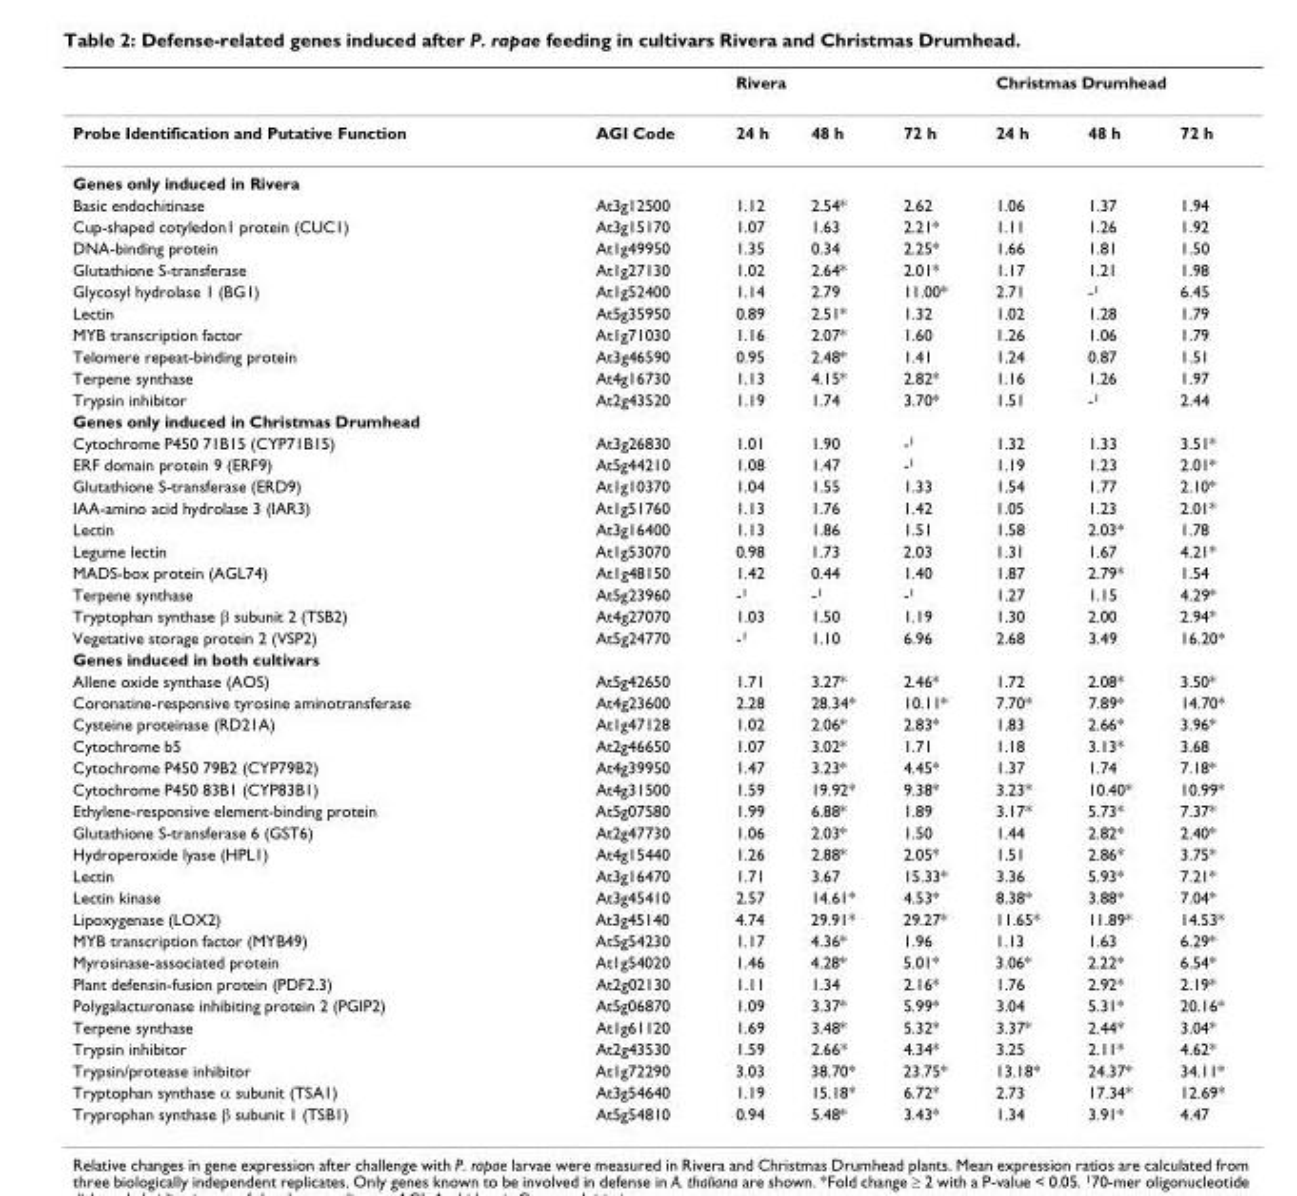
<table><thead><tr><td rowspan="2">Probe Identification and Putative Function</td><td rowspan="2">AGI Code</td><td colspan="3">Rivera</td><td colspan="3">Christmas Drumhead</td></tr><tr><td>24 h</td><td>48 h</td><td>72 h</td><td>24 h</td><td>48 h</td><td>72 h</td></tr></thead><tbody><tr><td colspan="8">Genes only induced in Rivera</td></tr><tr><td>Basic endochitinase</td><td>At3g12500</td><td>1.12</td><td>2.54*</td><td>2.62</td><td>1.06</td><td>1.37</td><td>1.94</td></tr><tr><td>Cup-shaped cotyledon1 protein (CUC1)</td><td>At3g15170</td><td>1.07</td><td>1.63</td><td>2.21*</td><td>1.11</td><td>1.26</td><td>1.92</td></tr><tr><td>DNA-binding protein</td><td>At1g49950</td><td>1.35</td><td>0.34</td><td>2.25*</td><td>1.66</td><td>1.81</td><td>1.50</td></tr><tr><td>Glutathione S-transferase</td><td>At1g27130</td><td>1.02</td><td>2.64*</td><td>2.01*</td><td>1.17</td><td>1.21</td><td>1.98</td></tr><tr><td>Glycosyl hydrolase 1 (BG1)</td><td>At1g52400</td><td>1.14</td><td>2.79</td><td>11.00*</td><td>2.71</td><td>-<sup>1</sup></td><td>6.45</td></tr><tr><td>Lectin</td><td>At5g35950</td><td>0.89</td><td>2.51*</td><td>1.32</td><td>1.02</td><td>1.28</td><td>1.79</td></tr><tr><td>MYB transcription factor</td><td>At1g71030</td><td>1.16</td><td>2.07*</td><td>1.60</td><td>1.26</td><td>1.06</td><td>1.79</td></tr><tr><td>Telomere repeat-binding protein</td><td>At3g46590</td><td>0.95</td><td>2.48*</td><td>1.41</td><td>1.24</td><td>0.87</td><td>1.51</td></tr><tr><td>Terpene synthase</td><td>At4g16730</td><td>1.13</td><td>4.15*</td><td>2.82*</td><td>1.16</td><td>1.26</td><td>1.97</td></tr><tr><td>Trypsin inhibitor</td><td>At2g43520</td><td>1.19</td><td>1.74</td><td>3.70*</td><td>1.51</td><td>-<sup>1</sup></td><td>2.44</td></tr><tr><td colspan="8">Genes only induced in Christmas Drumhead</td></tr><tr><td>Cytochrome P450 71B15 (CYP71B15)</td><td>At3g26830</td><td>1.01</td><td>1.90</td><td>-<sup>1</sup></td><td>1.32</td><td>1.33</td><td>3.51*</td></tr><tr><td>ERF domain protein 9 (ERF9)</td><td>At5g44210</td><td>1.08</td><td>1.47</td><td>-<sup>1</sup></td><td>1.19</td><td>1.23</td><td>2.01*</td></tr><tr><td>Glutathione S-transferase (ERD9)</td><td>At1g10370</td><td>1.04</td><td>1.55</td><td>1.33</td><td>1.54</td><td>1.77</td><td>2.10*</td></tr><tr><td>IAA-amino acid hydrolase 3 (IAR3)</td><td>At1g51760</td><td>1.13</td><td>1.76</td><td>1.42</td><td>1.05</td><td>1.23</td><td>2.01*</td></tr><tr><td>Lectin</td><td>At3g16400</td><td>1.13</td><td>1.86</td><td>1.51</td><td>1.58</td><td>2.03*</td><td>1.78</td></tr><tr><td>Legume lectin</td><td>At1g53070</td><td>0.98</td><td>1.73</td><td>2.03</td><td>1.31</td><td>1.67</td><td>4.21*</td></tr><tr><td>MADS-box protein (AGL74)</td><td>At1g48150</td><td>1.42</td><td>0.44</td><td>1.40</td><td>1.87</td><td>2.79*</td><td>1.54</td></tr><tr><td>Terpene synthase</td><td>At5g23960</td><td>-<sup>1</sup></td><td>-<sup>1</sup></td><td>-<sup>1</sup></td><td>1.27</td><td>1.15</td><td>4.29*</td></tr><tr><td>Tryptophan synthase β subunit 2 (TSB2)</td><td>At4g27070</td><td>1.03</td><td>1.50</td><td>1.19</td><td>1.30</td><td>2.00</td><td>2.94*</td></tr><tr><td>Vegetative storage protein 2 (VSP2)</td><td>At5g24770</td><td>-<sup>1</sup></td><td>1.10</td><td>6.96</td><td>2.68</td><td>3.49</td><td>16.20*</td></tr><tr><td colspan="8">Genes induced in both cultivars</td></tr><tr><td>Allene oxide synthase (AOS)</td><td>At5g42650</td><td>1.71</td><td>3.27*</td><td>2.46*</td><td>1.72</td><td>2.08*</td><td>3.50*</td></tr><tr><td>Coronatine-responsive tyrosine aminotransferase</td><td>At4g23600</td><td>2.28</td><td>28.34*</td><td>10.11*</td><td>7.70*</td><td>7.89*</td><td>14.70*</td></tr><tr><td>Cysteine proteinase (RD21A)</td><td>At1g47128</td><td>1.02</td><td>2.06*</td><td>2.83*</td><td>1.83</td><td>2.66*</td><td>3.96*</td></tr><tr><td>Cytochrome b5</td><td>At2g46650</td><td>1.07</td><td>3.02*</td><td>1.71</td><td>1.18</td><td>3.13*</td><td>3.68</td></tr><tr><td>Cytochrome P450 79B2 (CYP79B2)</td><td>At4g39950</td><td>1.47</td><td>3.23*</td><td>4.45*</td><td>1.37</td><td>1.74</td><td>7.18*</td></tr><tr><td>Cytochrome P450 83B1 (CYP83B1)</td><td>At4g31500</td><td>1.59</td><td>19.92*</td><td>9.38*</td><td>3.23*</td><td>10.40*</td><td>10.99*</td></tr><tr><td>Ethylene-responsive element-binding protein</td><td>At5g07580</td><td>1.99</td><td>6.88*</td><td>1.89</td><td>3.17*</td><td>5.73*</td><td>7.37*</td></tr><tr><td>Glutathione S-transferase 6 (GST6)</td><td>At2g47730</td><td>1.06</td><td>2.03*</td><td>1.50</td><td>1.44</td><td>2.82*</td><td>2.40*</td></tr><tr><td>Hydroperoxide lyase (HPL1)</td><td>At4g15440</td><td>1.26</td><td>2.88*</td><td>2.05*</td><td>1.51</td><td>2.86*</td><td>3.75*</td></tr><tr><td>Lectin</td><td>At3g16470</td><td>1.71</td><td>3.67</td><td>15.33*</td><td>3.36</td><td>5.93*</td><td>7.21*</td></tr><tr><td>Lectin kinase</td><td>At3g45410</td><td>2.57</td><td>14.61*</td><td>4.53*</td><td>8.38*</td><td>3.88*</td><td>7.04*</td></tr><tr><td>Lipoxygenase (LOX2)</td><td>At3g45140</td><td>4.74</td><td>29.91*</td><td>29.27*</td><td>11.65*</td><td>11.89*</td><td>14.53*</td></tr><tr><td>MYB transcription factor (MYB49)</td><td>At5g54230</td><td>1.17</td><td>4.36*</td><td>1.96</td><td>1.13</td><td>1.63</td><td>6.29*</td></tr><tr><td>Myrosinase-associated protein</td><td>At1g54020</td><td>1.46</td><td>4.28*</td><td>5.01*</td><td>3.06*</td><td>2.22*</td><td>6.54*</td></tr><tr><td>Plant defensin-fusion protein (PDF2.3)</td><td>At2g02130</td><td>1.11</td><td>1.34</td><td>2.16*</td><td>1.76</td><td>2.92*</td><td>2.19*</td></tr><tr><td>Polygalacturonase inhibiting protein 2 (PGIP2)</td><td>At5g06870</td><td>1.09</td><td>3.37*</td><td>5.99*</td><td>3.04</td><td>5.31*</td><td>20.16*</td></tr><tr><td>Terpene synthase</td><td>At1g61120</td><td>1.69</td><td>3.48*</td><td>5.32*</td><td>3.37*</td><td>2.44*</td><td>3.04*</td></tr><tr><td>Trypsin inhibitor</td><td>At2g43530</td><td>1.59</td><td>2.66*</td><td>4.34*</td><td>3.25</td><td>2.11*</td><td>4.62*</td></tr><tr><td>Trypsin/protease inhibitor</td><td>At1g72290</td><td>3.03</td><td>38.70*</td><td>23.75*</td><td>13.18*</td><td>24.37*</td><td>34.11*</td></tr><tr><td>Tryptophan synthase α subunit (TSA1)</td><td>At3g54640</td><td>1.19</td><td>15.18*</td><td>6.72*</td><td>2.73</td><td>17.34*</td><td>12.69*</td></tr><tr><td>Tryprophan synthase β subunit 1 (TSB1)</td><td>At5g54810</td><td>0.94</td><td>5.48*</td><td>3.43*</td><td>1.34</td><td>3.91*</td><td>4.47</td></tr></tbody></table>